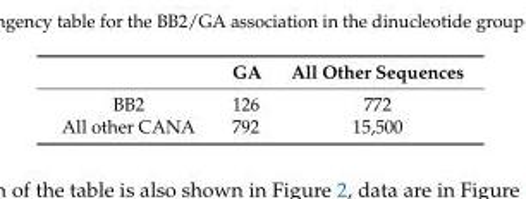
<table><thead><tr><td></td><td>GA</td><td>All Other Sequences</td></tr></thead><tbody><tr><td>BB2</td><td>126</td><td>772</td></tr><tr><td>All other CANA</td><td>792</td><td>15,500</td></tr></tbody></table>